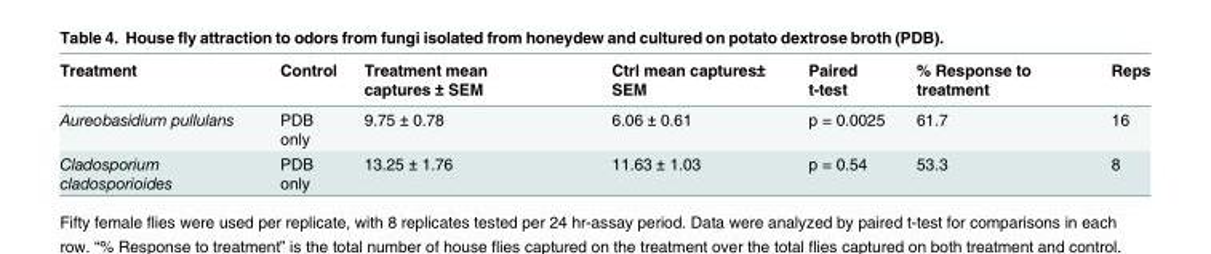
<table><thead><tr><td>Treatment</td><td>Control</td><td>Treatment mean captures ± SEM</td><td>Ctrl mean captures± SEM</td><td>Paired t-test</td><td>% Response to treatment</td><td>Reps</td></tr></thead><tbody><tr><td>Aureobasidium pullulans</td><td>PDB only</td><td>9.75 ± 0.78</td><td>6.06 ± 0.61</td><td>p = 0.0025</td><td>61.7</td><td>16</td></tr><tr><td>Cladosporium cladosporioides</td><td>PDB only</td><td>13.25 ± 1.76</td><td>11.63 ± 1.03</td><td>p = 0.54</td><td>53.3</td><td>8</td></tr></tbody></table>